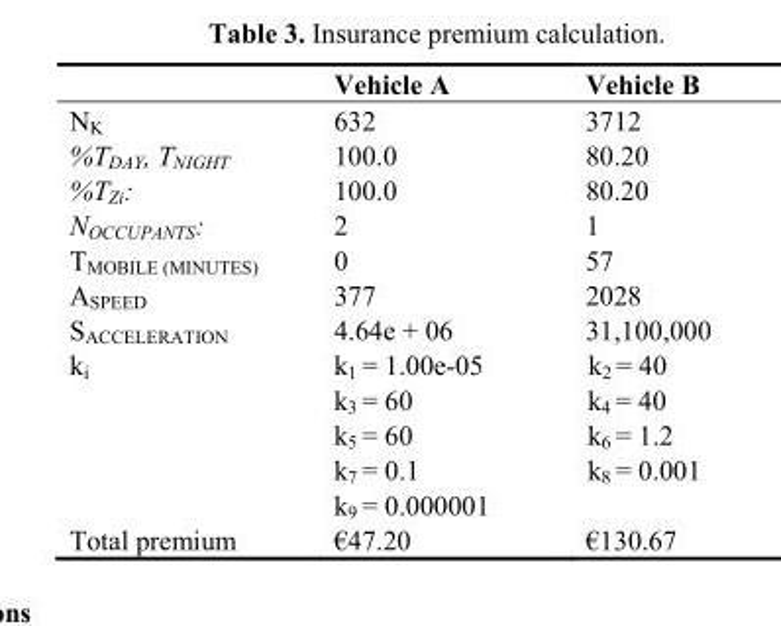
<table><thead><tr><td></td><td>Vehicle A</td><td>Vehicle B</td></tr></thead><tbody><tr><td>N<sub>K</sub></td><td>632</td><td>3712</td></tr><tr><td>%T<sub>DAY</sub>, T<sub>NIGHT</sub></td><td>100.0</td><td>80.20</td></tr><tr><td>%T<sub>Zi</sub>:</td><td>100.0</td><td>80.20</td></tr><tr><td>N<sub>OCCUPANTS</sub>:</td><td>2</td><td>1</td></tr><tr><td>T<sub>MOBILE (MINUTES)</sub></td><td>0</td><td>57</td></tr><tr><td>A<sub>SPEED</sub></td><td>377</td><td>2028</td></tr><tr><td>S<sub>ACCELERATION</sub></td><td>4.64e + 06</td><td>31,100,000</td></tr><tr><td rowspan="5">k<sub>i</sub></td><td>k<sub>1</sub> = 1.00e-05</td><td>k<sub>2</sub> = 40</td></tr><tr><td>k<sub>3</sub> = 60</td><td>k<sub>4</sub> = 40</td></tr><tr><td>k<sub>5</sub> = 60</td><td>k<sub>6</sub> = 1.2</td></tr><tr><td>k<sub>7</sub> = 0.1</td><td>k<sub>8</sub> = 0.001</td></tr><tr><td>k<sub>9</sub> = 0.000001</td><td></td></tr><tr><td>Total premium</td><td>€47.20</td><td>€130.67</td></tr></tbody></table>